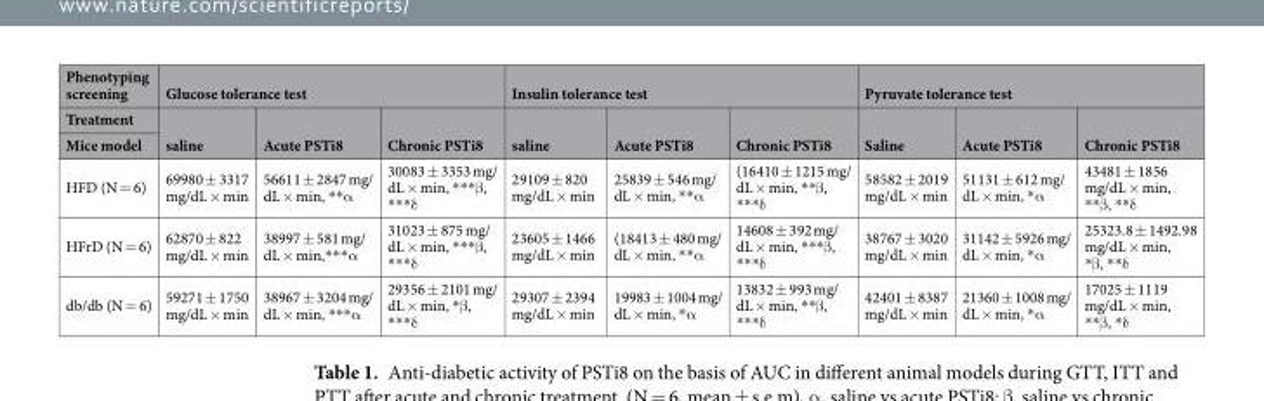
<table><thead><tr><td rowspan="3">Phenotyping screening Treatment Mice model</td><td colspan="3">Glucose tolerance test</td><td colspan="3">Insulin tolerance test</td><td colspan="3">Pyruvate tolerance test</td></tr><tr><td rowspan="2">saline</td><td rowspan="2">Acute PSTi8</td><td rowspan="2">Chronic PSTi8</td><td rowspan="2">saline</td><td rowspan="2">Acute PSTi8</td><td rowspan="2">Chronic PSTi8</td><td rowspan="2">Saline</td><td rowspan="2">Acute PSTi8</td><td rowspan="2">Chronic PSTi8</td></tr><tr></tr></thead><tbody><tr><td>HFD (N = 6)</td><td>69980 ± 3317 mg/dL × min</td><td>56611 ± 2847 mg/ dL × min, **α</td><td>30083 ± 3353 mg/ dL × min, ***β, ***δ</td><td>29109 ± 820 mg/dL × min</td><td>25839 ± 546 mg/ dL × min, **α</td><td>(16410 ± 1215 mg/ dL × min, **β, ***δ</td><td>58582 ± 2019 mg/dL × min</td><td>51131 ± 612 mg/ dL × min, *α</td><td>43481 ± 1856 mg/dL × min, **β, **δ</td></tr><tr><td>HFrD (N = 6)</td><td>62870 ± 822 mg/dL × min</td><td>38997 ± 581 mg/ dL × min,***α</td><td>31023 ± 875 mg/ dL × min, ***β, ***δ</td><td>23605 ± 1466 mg/dL × min</td><td>(18413 ± 480 mg/ dL × min, **α</td><td>14608 ± 392 mg/ dL × min, ***β, ***δ</td><td>38767 ± 3020 mg/dL × min</td><td>31142 ± 5926 mg/ dL × min, *α</td><td>25323.8 ± 1492.98 mg/dL × min, *β, **δ</td></tr><tr><td>db/db (N = 6)</td><td>59271 ± 1750 mg/dL × min</td><td>38967 ± 3204 mg/ dL × min, ***α</td><td>29356 ± 2101 mg/ dL × min, *β, ***δ</td><td>29307 ± 2394 mg/dL × min</td><td>19983 ± 1004 mg/ dL × min, *α</td><td>13832 ± 993 mg/ dL × min, **β, ***δ</td><td>42401 ± 8387 mg/dL × min</td><td>21360 ± 1008 mg/ dL × min, *α</td><td>17025 ± 1119 mg/dL × min, **β, *δ</td></tr></tbody></table>